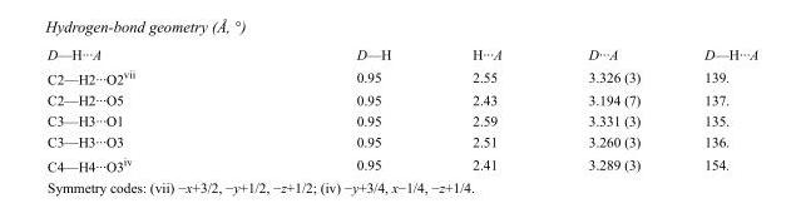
<table><tbody><tr><td>D—H···A</td><td>D—H</td><td>H···A</td><td>D···A</td><td>D—H···A</td></tr><tr><td>C2—H2···O2<sup>vii</sup></td><td>0.95</td><td>2.55</td><td>3.326 (3)</td><td>139.</td></tr><tr><td>C2—H2···O5</td><td>0.95</td><td>2.43</td><td>3.194 (7)</td><td>137.</td></tr><tr><td>C3—H3···O1</td><td>0.95</td><td>2.59</td><td>3.331 (3)</td><td>135.</td></tr><tr><td>C3—H3···O3</td><td>0.95</td><td>2.51</td><td>3.260 (3)</td><td>136.</td></tr><tr><td>C4—H4···O3<sup>iv</sup></td><td>0.95</td><td>2.41</td><td>3.289 (3)</td><td>154.</td></tr></tbody></table>